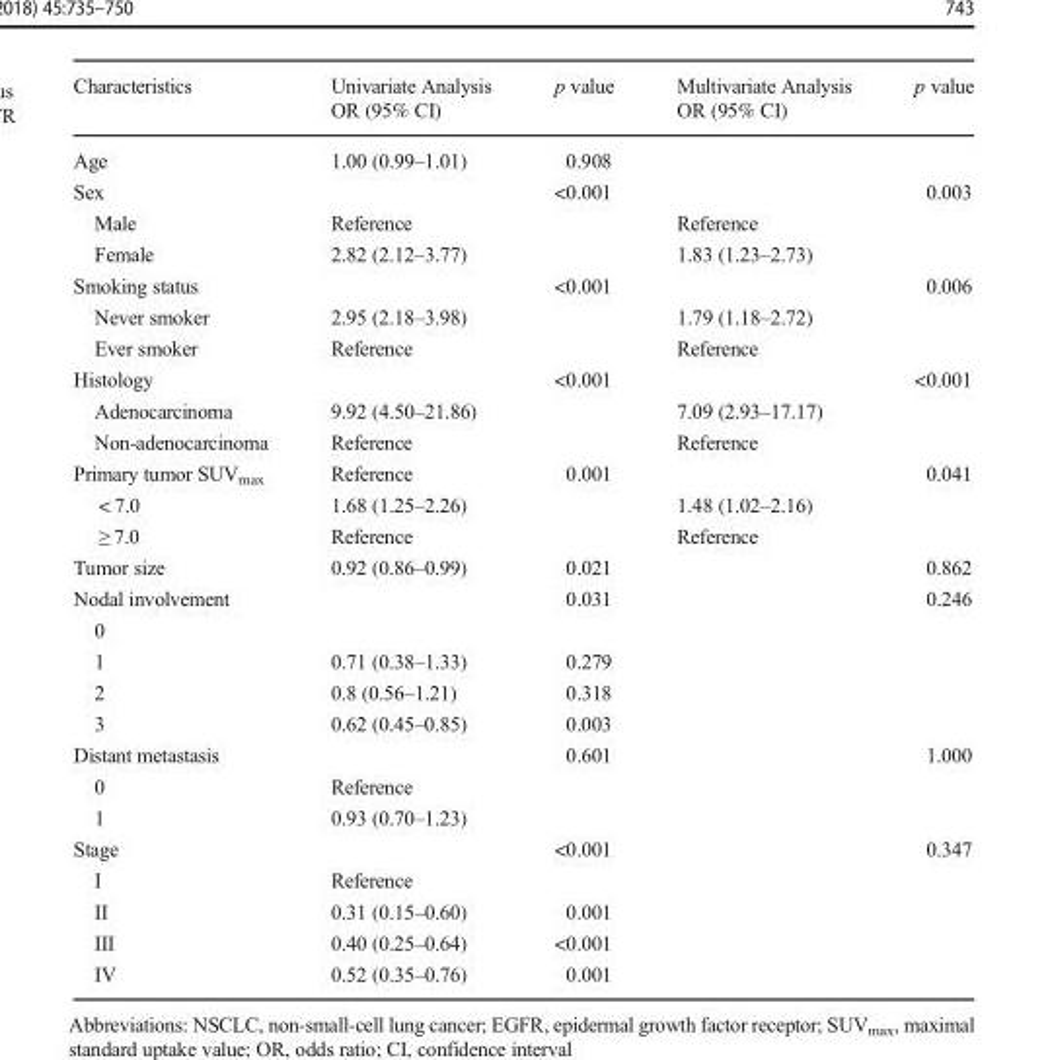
<table><thead><tr><td>Characteristics</td><td>Univariate Analysis OR (95% CI)</td><td>p value</td><td>Multivariate Analysis OR (95% CI)</td><td>p value</td></tr></thead><tbody><tr><td>Age</td><td>1.00 (0.99–1.01)</td><td>0.908</td><td></td><td></td></tr><tr><td>Sex</td><td></td><td>&lt;0.001</td><td></td><td>0.003</td></tr><tr><td>Male</td><td>Reference</td><td></td><td>Reference</td><td></td></tr><tr><td>Female</td><td>2.82 (2.12–3.77)</td><td></td><td>1.83 (1.23–2.73)</td><td></td></tr><tr><td>Smoking status</td><td></td><td>&lt;0.001</td><td></td><td>0.006</td></tr><tr><td>Never smoker</td><td>2.95 (2.18–3.98)</td><td></td><td>1.79 (1.18–2.72)</td><td></td></tr><tr><td>Ever smoker</td><td>Reference</td><td></td><td>Reference</td><td></td></tr><tr><td>Histology</td><td></td><td>&lt;0.001</td><td></td><td>&lt;0.001</td></tr><tr><td>Adenocarcinoma</td><td>9.92 (4.50–21.86)</td><td></td><td>7.09 (2.93–17.17)</td><td></td></tr><tr><td>Non-adenocarcinoma</td><td>Reference</td><td></td><td>Reference</td><td></td></tr><tr><td>Primary tumor SUV<sub>max</sub></td><td>Reference</td><td>0.001</td><td></td><td>0.041</td></tr><tr><td>&lt; 7.0</td><td>1.68 (1.25–2.26)</td><td></td><td>1.48 (1.02–2.16)</td><td></td></tr><tr><td>≥ 7.0</td><td>Reference</td><td></td><td>Reference</td><td></td></tr><tr><td>Tumor size</td><td>0.92 (0.86–0.99)</td><td>0.021</td><td></td><td>0.862</td></tr><tr><td>Nodal involvement</td><td></td><td>0.031</td><td></td><td>0.246</td></tr><tr><td colspan="5">0</td></tr><tr><td>1</td><td>0.71 (0.38–1.33)</td><td>0.279</td><td></td><td></td></tr><tr><td>2</td><td>0.8 (0.56–1.21)</td><td>0.318</td><td></td><td></td></tr><tr><td>3</td><td>0.62 (0.45–0.85)</td><td>0.003</td><td></td><td></td></tr><tr><td>Distant metastasis</td><td></td><td>0.601</td><td></td><td>1.000</td></tr><tr><td>0</td><td>Reference</td><td></td><td></td><td></td></tr><tr><td>1</td><td>0.93 (0.70–1.23)</td><td></td><td></td><td></td></tr><tr><td>Stage</td><td></td><td>&lt;0.001</td><td></td><td>0.347</td></tr><tr><td>I</td><td>Reference</td><td></td><td></td><td></td></tr><tr><td>II</td><td>0.31 (0.15–0.60)</td><td>0.001</td><td></td><td></td></tr><tr><td>III</td><td>0.40 (0.25–0.64)</td><td>&lt;0.001</td><td></td><td></td></tr><tr><td>IV</td><td>0.52 (0.35–0.76)</td><td>0.001</td><td></td><td></td></tr></tbody></table>